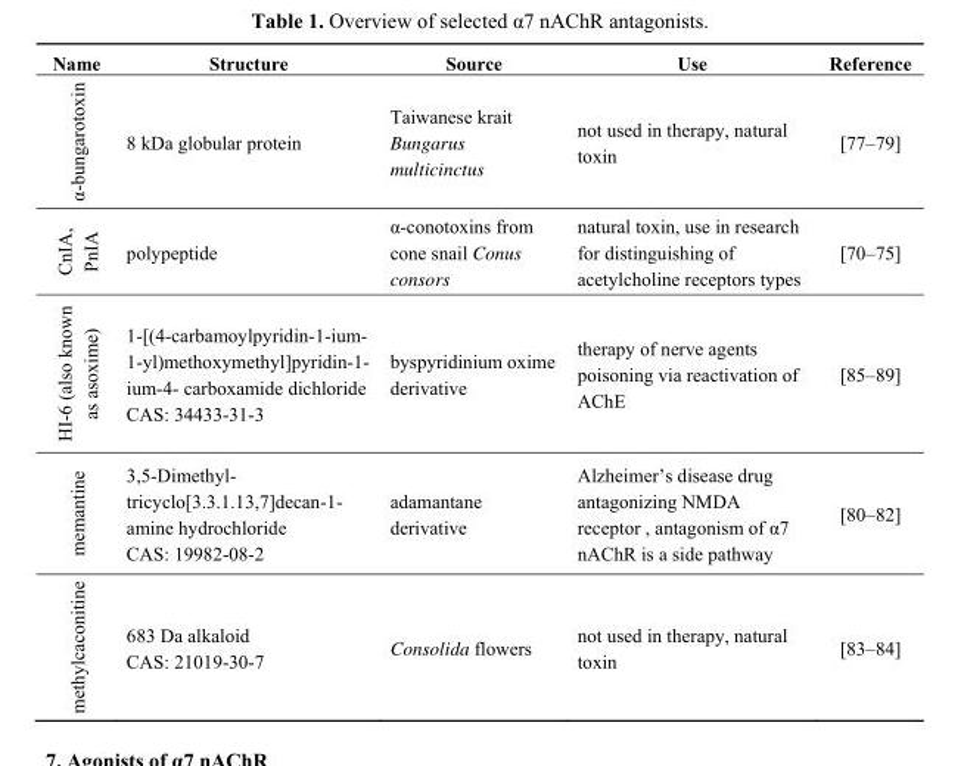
<table><thead><tr><td>Name</td><td>Structure</td><td>Source</td><td>Use</td><td>Reference</td></tr></thead><tbody><tr><td>α-bungarotoxin</td><td>8 kDa globular protein</td><td>Taiwanese krait Bungarus multicinctus</td><td>not used in therapy, natural toxin</td><td>[77–79]</td></tr><tr><td>CnIA, PnIA</td><td>polypeptide</td><td>α-conotoxins from cone snail Conus consors</td><td>natural toxin, use in research for distinguishing of acetylcholine receptors types</td><td>[70–75]</td></tr><tr><td>HI-6 (also known as asoxime)</td><td>1-[(4-carbamoylpyridin-1-ium- 1-yl)methoxymethyl]pyridin-1- ium-4- carboxamide dichloride CAS: 34433-31-3</td><td>byspyridinium oxime derivative</td><td>therapy of nerve agents poisoning via reactivation of AChE</td><td>[85–89]</td></tr><tr><td>memantine</td><td>3,5-Dimethyl- tricyclo[3.3.1.13,7]decan-1- amine hydrochloride CAS: 19982-08-2</td><td>adamantane derivative</td><td>Alzheimer’s disease drug antagonizing NMDA receptor , antagonism of α7 nAChR is a side pathway</td><td>[80–82]</td></tr><tr><td>methylcaconitine</td><td>683 Da alkaloid CAS: 21019-30-7</td><td>Consolida flowers</td><td>not used in therapy, natural toxin</td><td>[83–84]</td></tr></tbody></table>